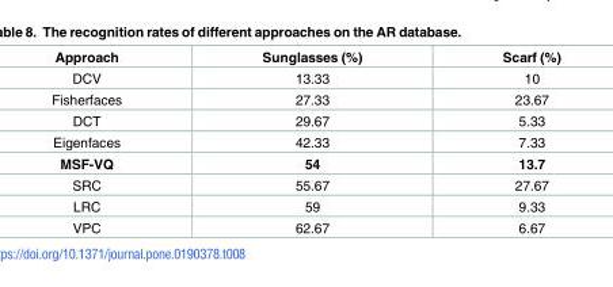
<table><thead><tr><td>Approach</td><td>Sunglasses (%)</td><td>Scarf (%)</td></tr></thead><tbody><tr><td>DCV</td><td>13.33</td><td>10</td></tr><tr><td>Fisherfaces</td><td>27.33</td><td>23.67</td></tr><tr><td>DCT</td><td>29.67</td><td>5.33</td></tr><tr><td>Eigenfaces</td><td>42.33</td><td>7.33</td></tr><tr><td>MSF-VQ</td><td>54</td><td>13.7</td></tr><tr><td>SRC</td><td>55.67</td><td>27.67</td></tr><tr><td>LRC</td><td>59</td><td>9.33</td></tr><tr><td>VPC</td><td>62.67</td><td>6.67</td></tr></tbody></table>